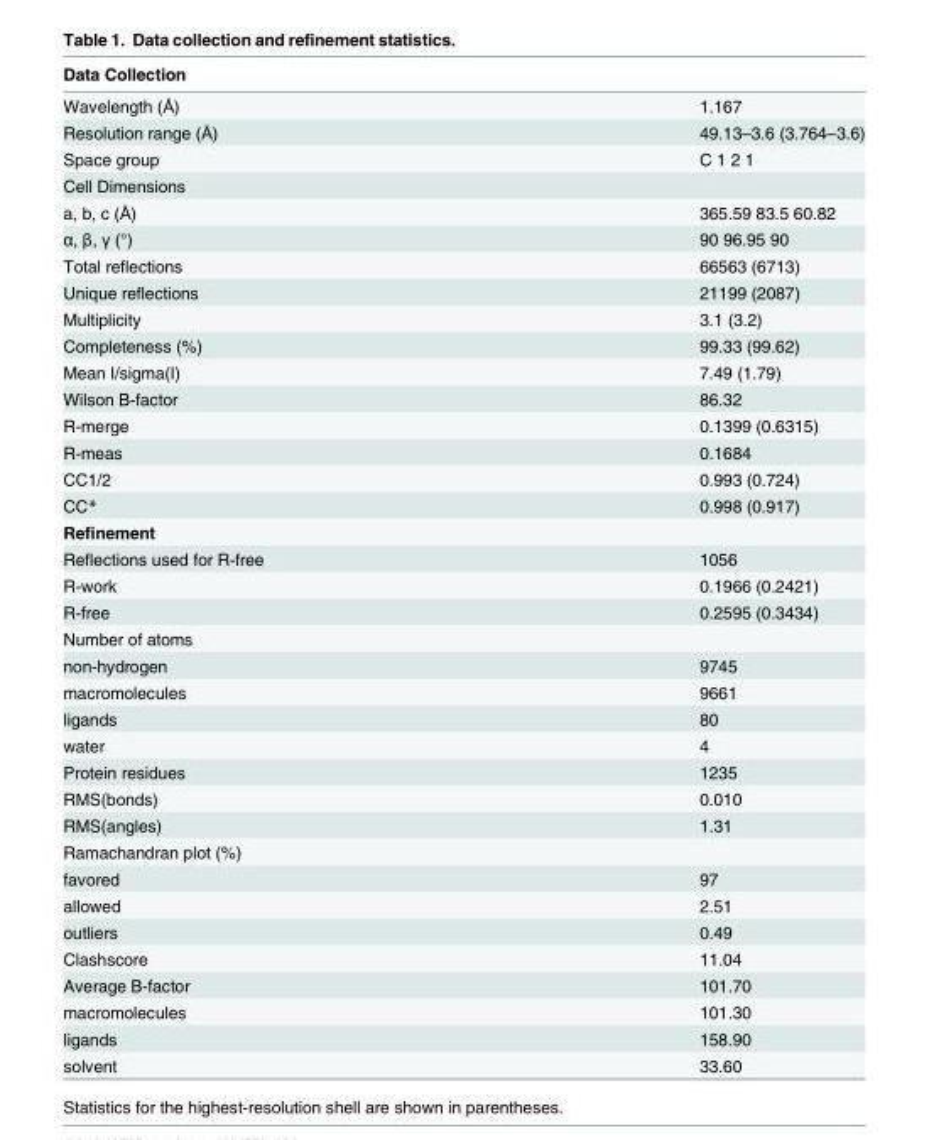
<table><thead><tr><td>Data Collection</td><td></td></tr></thead><tbody><tr><td>Wavelength (Å)</td><td>1.167</td></tr><tr><td>Resolution range (Å)</td><td>49.13–3.6 (3.764–3.6)</td></tr><tr><td>Space group</td><td>C 1 2 1</td></tr><tr><td colspan="2">Cell Dimensions</td></tr><tr><td>a, b, c (Å)</td><td>365.59 83.5 60.82</td></tr><tr><td>α, β, γ (°)</td><td>90 96.95 90</td></tr><tr><td>Total reflections</td><td>66563 (6713)</td></tr><tr><td>Unique reflections</td><td>21199 (2087)</td></tr><tr><td>Multiplicity</td><td>3.1 (3.2)</td></tr><tr><td>Completeness (%)</td><td>99.33 (99.62)</td></tr><tr><td>Mean I/sigma(I)</td><td>7.49 (1.79)</td></tr><tr><td>Wilson B-factor</td><td>86.32</td></tr><tr><td>R-merge</td><td>0.1399 (0.6315)</td></tr><tr><td>R-meas</td><td>0.1684</td></tr><tr><td>CC1/2</td><td>0.993 (0.724)</td></tr><tr><td>CC*</td><td>0.998 (0.917)</td></tr><tr><td colspan="2">Refinement</td></tr><tr><td>Reflections used for R-free</td><td>1056</td></tr><tr><td>R-work</td><td>0.1966 (0.2421)</td></tr><tr><td>R-free</td><td>0.2595 (0.3434)</td></tr><tr><td colspan="2">Number of atoms</td></tr><tr><td>non-hydrogen</td><td>9745</td></tr><tr><td>macromolecules</td><td>9661</td></tr><tr><td>ligands</td><td>80</td></tr><tr><td>water</td><td>4</td></tr><tr><td>Protein residues</td><td>1235</td></tr><tr><td>RMS(bonds)</td><td>0.010</td></tr><tr><td>RMS(angles)</td><td>1.31</td></tr><tr><td colspan="2">Ramachandran plot (%)</td></tr><tr><td>favored</td><td>97</td></tr><tr><td>allowed</td><td>2.51</td></tr><tr><td>outliers</td><td>0.49</td></tr><tr><td>Clashscore</td><td>11.04</td></tr><tr><td>Average B-factor</td><td>101.70</td></tr><tr><td>macromolecules</td><td>101.30</td></tr><tr><td>ligands</td><td>158.90</td></tr><tr><td>solvent</td><td>33.60</td></tr></tbody></table>